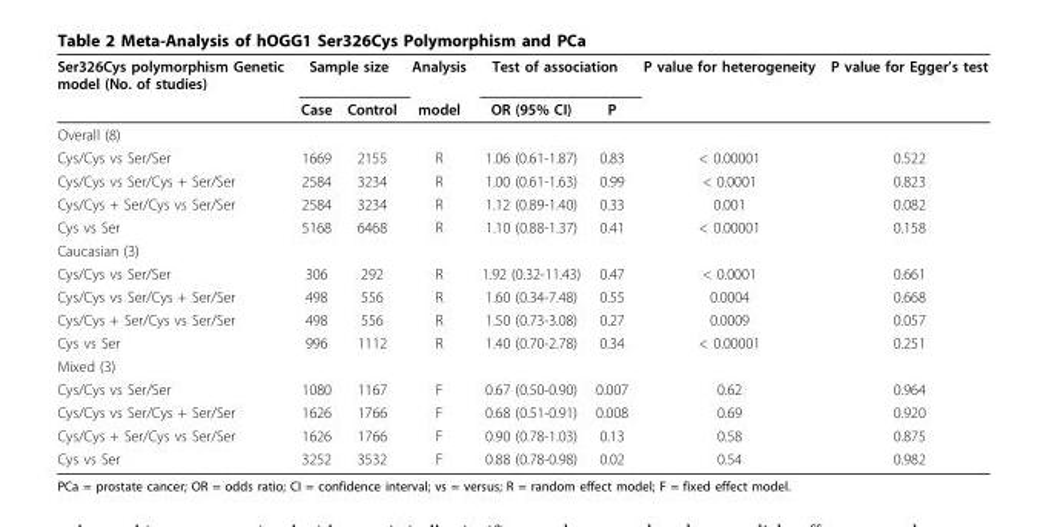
<table><thead><tr><td rowspan="2">Ser326Cys polymorphism Genetic model (No. of studies)</td><td colspan="2">Sample size</td><td rowspan="2">Analysis model</td><td colspan="2">Test of association</td><td rowspan="2">P value for heterogeneity</td><td rowspan="2">P value for Egger’s test</td></tr><tr><td>Case</td><td>Control</td><td>OR (95% CI)</td><td>P</td></tr></thead><tbody><tr><td colspan="8">Overall (8)</td></tr><tr><td>Cys/Cys vs Ser/Ser</td><td>1669</td><td>2155</td><td>R</td><td>1.06 (0.61-1.87)</td><td>0.83</td><td>&lt; 0.00001</td><td>0.522</td></tr><tr><td>Cys/Cys vs Ser/Cys + Ser/Ser</td><td>2584</td><td>3234</td><td>R</td><td>1.00 (0.61-1.63)</td><td>0.99</td><td>&lt; 0.0001</td><td>0.823</td></tr><tr><td>Cys/Cys + Ser/Cys vs Ser/Ser</td><td>2584</td><td>3234</td><td>R</td><td>1.12 (0.89-1.40)</td><td>0.33</td><td>0.001</td><td>0.082</td></tr><tr><td>Cys vs Ser</td><td>5168</td><td>6468</td><td>R</td><td>1.10 (0.88-1.37)</td><td>0.41</td><td>&lt; 0.00001</td><td>0.158</td></tr><tr><td colspan="8">Caucasian (3)</td></tr><tr><td>Cys/Cys vs Ser/Ser</td><td>306</td><td>292</td><td>R</td><td>1.92 (0.32-11.43)</td><td>0.47</td><td>&lt; 0.0001</td><td>0.661</td></tr><tr><td>Cys/Cys vs Ser/Cys + Ser/Ser</td><td>498</td><td>556</td><td>R</td><td>1.60 (0.34-7.48)</td><td>0.55</td><td>0.0004</td><td>0.668</td></tr><tr><td>Cys/Cys + Ser/Cys vs Ser/Ser</td><td>498</td><td>556</td><td>R</td><td>1.50 (0.73-3.08)</td><td>0.27</td><td>0.0009</td><td>0.057</td></tr><tr><td>Cys vs Ser</td><td>996</td><td>1112</td><td>R</td><td>1.40 (0.70-2.78)</td><td>0.34</td><td>&lt; 0.00001</td><td>0.251</td></tr><tr><td colspan="8">Mixed (3)</td></tr><tr><td>Cys/Cys vs Ser/Ser</td><td>1080</td><td>1167</td><td>F</td><td>0.67 (0.50-0.90)</td><td>0.007</td><td>0.62</td><td>0.964</td></tr><tr><td>Cys/Cys vs Ser/Cys + Ser/Ser</td><td>1626</td><td>1766</td><td>F</td><td>0.68 (0.51-0.91)</td><td>0.008</td><td>0.69</td><td>0.920</td></tr><tr><td>Cys/Cys + Ser/Cys vs Ser/Ser</td><td>1626</td><td>1766</td><td>F</td><td>0.90 (0.78-1.03)</td><td>0.13</td><td>0.58</td><td>0.875</td></tr><tr><td>Cys vs Ser</td><td>3252</td><td>3532</td><td>F</td><td>0.88 (0.78-0.98)</td><td>0.02</td><td>0.54</td><td>0.982</td></tr></tbody></table>